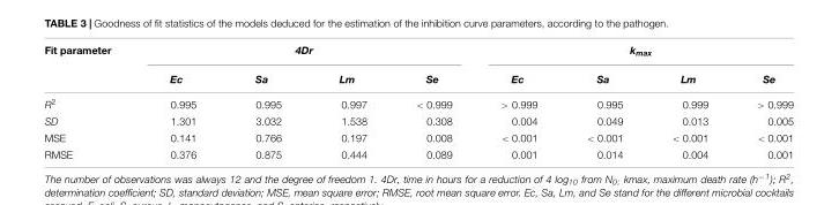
<table><thead><tr><td rowspan="2">Fit parameter</td><td colspan="4">4Dr</td><td colspan="4">k<sub>max</sub></td></tr><tr><td>Ec</td><td>Sa</td><td>Lm</td><td>Se</td><td>Ec</td><td>Sa</td><td>Lm</td><td>Se</td></tr></thead><tbody><tr><td>R<sup>2</sup></td><td>0.995</td><td>0.995</td><td>0.997</td><td>&lt; 0.999</td><td>&gt; 0.999</td><td>0.995</td><td>0.999</td><td>&gt; 0.999</td></tr><tr><td>SD</td><td>1.301</td><td>3.032</td><td>1.538</td><td>0.308</td><td>0.004</td><td>0.049</td><td>0.013</td><td>0.005</td></tr><tr><td>MSE</td><td>0.141</td><td>0.766</td><td>0.197</td><td>0.008</td><td>&lt; 0.001</td><td>&lt; 0.001</td><td>&lt; 0.001</td><td>&lt; 0.001</td></tr><tr><td>RMSE</td><td>0.376</td><td>0.875</td><td>0.444</td><td>0.089</td><td>0.001</td><td>0.014</td><td>0.004</td><td>0.001</td></tr></tbody></table>